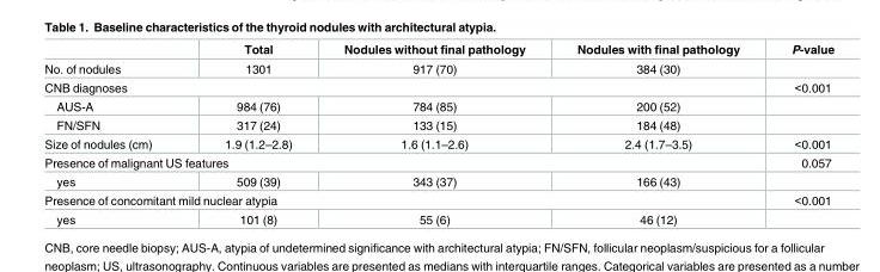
<table><thead><tr><td></td><td>Total</td><td>Nodules without final pathology</td><td>Nodules with final pathology</td><td>P-value</td></tr></thead><tbody><tr><td>No. of nodules</td><td>1301</td><td>917 (70)</td><td>384 (30)</td><td></td></tr><tr><td colspan="4">CNB diagnoses</td><td>&lt;0.001</td></tr><tr><td>AUS-A</td><td>984 (76)</td><td>784 (85)</td><td>200 (52)</td><td></td></tr><tr><td>FN/SFN</td><td>317 (24)</td><td>133 (15)</td><td>184 (48)</td><td></td></tr><tr><td>Size of nodules (cm)</td><td>1.9 (1.2–2.8)</td><td>1.6 (1.1–2.6)</td><td>2.4 (1.7–3.5)</td><td>&lt;0.001</td></tr><tr><td colspan="4">Presence of malignant US features</td><td>0.057</td></tr><tr><td>yes</td><td>509 (39)</td><td>343 (37)</td><td>166 (43)</td><td></td></tr><tr><td colspan="4">Presence of concomitant mild nuclear atypia</td><td>&lt;0.001</td></tr><tr><td>yes</td><td>101 (8)</td><td>55 (6)</td><td>46 (12)</td><td></td></tr></tbody></table>